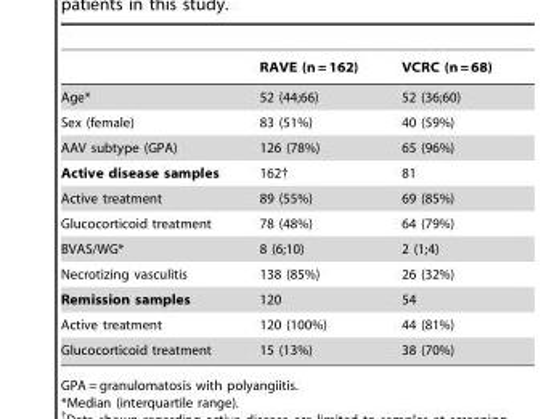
<table><thead><tr><td></td><td>RAVE (n = 162)</td><td>VCRC (n = 68)</td></tr></thead><tbody><tr><td>Age*</td><td>52 (44;66)</td><td>52 (36;60)</td></tr><tr><td>Sex (female)</td><td>83 (51%)</td><td>40 (59%)</td></tr><tr><td>AAV subtype (GPA)</td><td>126 (78%)</td><td>65 (96%)</td></tr><tr><td>Active disease samples</td><td>162†</td><td>81</td></tr><tr><td>Active treatment</td><td>89 (55%)</td><td>69 (85%)</td></tr><tr><td>Glucocorticoid treatment</td><td>78 (48%)</td><td>64 (79%)</td></tr><tr><td>BVAS/WG*</td><td>8 (6;10)</td><td>2 (1;4)</td></tr><tr><td>Necrotizing vasculitis</td><td>138 (85%)</td><td>26 (32%)</td></tr><tr><td>Remission samples</td><td>120</td><td>54</td></tr><tr><td>Active treatment</td><td>120 (100%)</td><td>44 (81%)</td></tr><tr><td>Glucocorticoid treatment</td><td>15 (13%)</td><td>38 (70%)</td></tr></tbody></table>